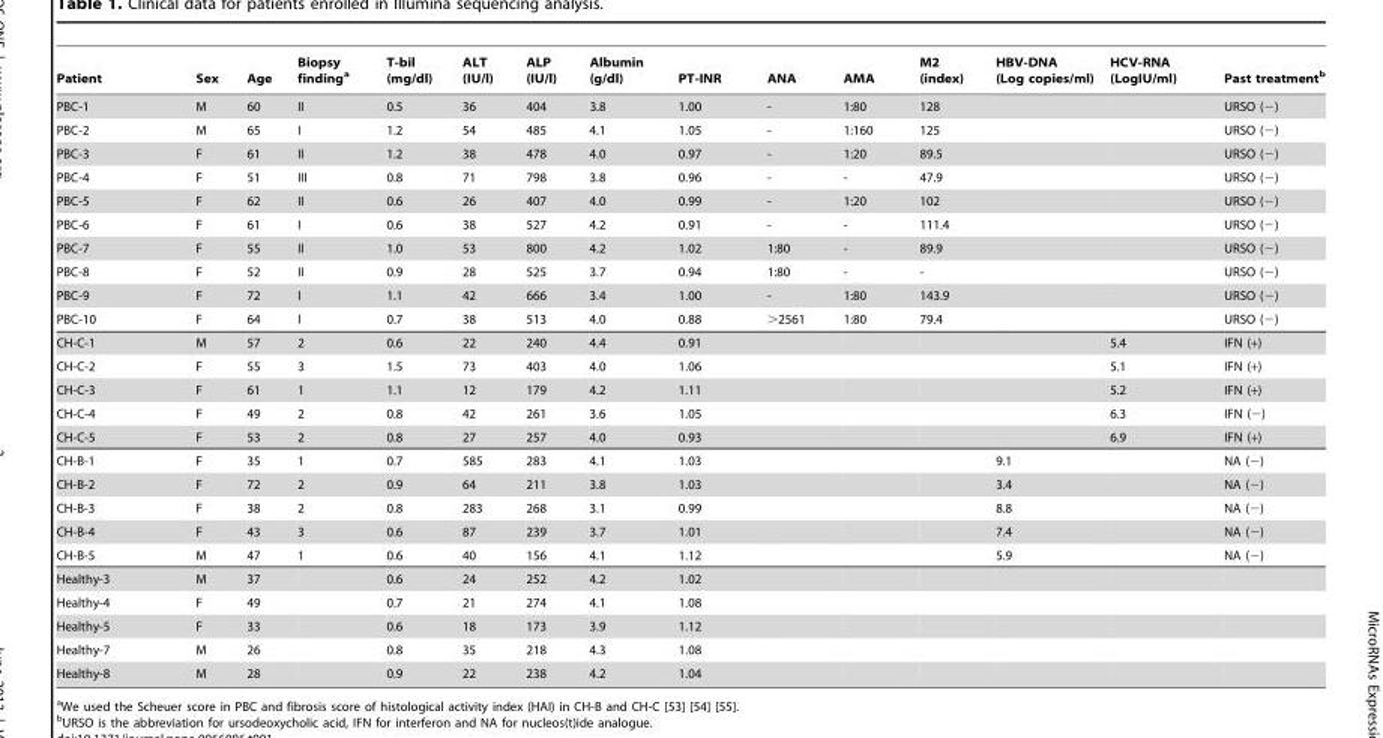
<table><thead><tr><td>Patient</td><td>Sex</td><td>Age</td><td>Biopsy finding<sup>a</sup></td><td>T-bil (mg/dl)</td><td>ALT (IU/l)</td><td>ALP (IU/l)</td><td>Albumin (g/dl)</td><td>PT-INR</td><td>ANA</td><td>AMA</td><td>M2 (index)</td><td>HBV-DNA (Log copies/ml)</td><td>HCV-RNA (LogIU/ml)</td><td>Past treatment<sup>b</sup></td></tr></thead><tbody><tr><td>PBC-1</td><td>M</td><td>60</td><td>II</td><td>0.5</td><td>36</td><td>404</td><td>3.8</td><td>1.00</td><td>-</td><td>1:80</td><td>128</td><td></td><td></td><td>URSO (−)</td></tr><tr><td>PBC-2</td><td>M</td><td>65</td><td>I</td><td>1.2</td><td>54</td><td>485</td><td>4.1</td><td>1.05</td><td>-</td><td>1:160</td><td>125</td><td></td><td></td><td>URSO (−)</td></tr><tr><td>PBC-3</td><td>F</td><td>61</td><td>II</td><td>1.2</td><td>38</td><td>478</td><td>4.0</td><td>0.97</td><td>-</td><td>1:20</td><td>89.5</td><td></td><td></td><td>URSO (−)</td></tr><tr><td>PBC-4</td><td>F</td><td>51</td><td>III</td><td>0.8</td><td>71</td><td>798</td><td>3.8</td><td>0.96</td><td>-</td><td>-</td><td>47.9</td><td></td><td></td><td>URSO (−)</td></tr><tr><td>PBC-5</td><td>F</td><td>62</td><td>II</td><td>0.6</td><td>26</td><td>407</td><td>4.0</td><td>0.99</td><td>-</td><td>1:20</td><td>102</td><td></td><td></td><td>URSO (−)</td></tr><tr><td>PBC-6</td><td>F</td><td>61</td><td>I</td><td>0.6</td><td>38</td><td>527</td><td>4.2</td><td>0.91</td><td>-</td><td>-</td><td>111.4</td><td></td><td></td><td>URSO (−)</td></tr><tr><td>PBC-7</td><td>F</td><td>55</td><td>II</td><td>1.0</td><td>53</td><td>800</td><td>4.2</td><td>1.02</td><td>1:80</td><td>-</td><td>89.9</td><td></td><td></td><td>URSO (−)</td></tr><tr><td>PBC-8</td><td>F</td><td>52</td><td>II</td><td>0.9</td><td>28</td><td>525</td><td>3.7</td><td>0.94</td><td>1:80</td><td>-</td><td>-</td><td></td><td></td><td>URSO (−)</td></tr><tr><td>PBC-9</td><td>F</td><td>72</td><td>I</td><td>1.1</td><td>42</td><td>666</td><td>3.4</td><td>1.00</td><td>-</td><td>1:80</td><td>143.9</td><td></td><td></td><td>URSO (−)</td></tr><tr><td>PBC-10</td><td>F</td><td>64</td><td>I</td><td>0.7</td><td>38</td><td>513</td><td>4.0</td><td>0.88</td><td>&gt;2561</td><td>1:80</td><td>79.4</td><td></td><td></td><td>URSO (−)</td></tr><tr><td>CH-C-1</td><td>M</td><td>57</td><td>2</td><td>0.6</td><td>22</td><td>240</td><td>4.4</td><td>0.91</td><td></td><td></td><td></td><td></td><td>5.4</td><td>IFN (+)</td></tr><tr><td>CH-C-2</td><td>F</td><td>55</td><td>3</td><td>1.5</td><td>73</td><td>403</td><td>4.0</td><td>1.06</td><td></td><td></td><td></td><td></td><td>5.1</td><td>IFN (+)</td></tr><tr><td>CH-C-3</td><td>F</td><td>61</td><td>1</td><td>1.1</td><td>12</td><td>179</td><td>4.2</td><td>1.11</td><td></td><td></td><td></td><td></td><td>5.2</td><td>IFN (+)</td></tr><tr><td>CH-C-4</td><td>F</td><td>49</td><td>2</td><td>0.8</td><td>42</td><td>261</td><td>3.6</td><td>1.05</td><td></td><td></td><td></td><td></td><td>6.3</td><td>IFN (−)</td></tr><tr><td>CH-C-5</td><td>F</td><td>53</td><td>2</td><td>0.8</td><td>27</td><td>257</td><td>4.0</td><td>0.93</td><td></td><td></td><td></td><td></td><td>6.9</td><td>IFN (+)</td></tr><tr><td>CH-B-1</td><td>F</td><td>35</td><td>1</td><td>0.7</td><td>585</td><td>283</td><td>4.1</td><td>1.03</td><td></td><td></td><td></td><td>9.1</td><td></td><td>NA (−)</td></tr><tr><td>CH-B-2</td><td>F</td><td>72</td><td>2</td><td>0.9</td><td>64</td><td>211</td><td>3.8</td><td>1.03</td><td></td><td></td><td></td><td>3.4</td><td></td><td>NA (−)</td></tr><tr><td>CH-B-3</td><td>F</td><td>38</td><td>2</td><td>0.8</td><td>283</td><td>268</td><td>3.1</td><td>0.99</td><td></td><td></td><td></td><td>8.8</td><td></td><td>NA (−)</td></tr><tr><td>CH-B-4</td><td>F</td><td>43</td><td>3</td><td>0.6</td><td>87</td><td>239</td><td>3.7</td><td>1.01</td><td></td><td></td><td></td><td>7.4</td><td></td><td>NA (−)</td></tr><tr><td>CH-B-5</td><td>M</td><td>47</td><td>1</td><td>0.6</td><td>40</td><td>156</td><td>4.1</td><td>1.12</td><td></td><td></td><td></td><td>5.9</td><td></td><td>NA (−)</td></tr><tr><td>Healthy-3</td><td>M</td><td>37</td><td></td><td>0.6</td><td>24</td><td>252</td><td>4.2</td><td>1.02</td><td></td><td></td><td></td><td></td><td></td><td></td></tr><tr><td>Healthy-4</td><td>F</td><td>49</td><td></td><td>0.7</td><td>21</td><td>274</td><td>4.1</td><td>1.08</td><td></td><td></td><td></td><td></td><td></td><td></td></tr><tr><td>Healthy-5</td><td>F</td><td>33</td><td></td><td>0.6</td><td>18</td><td>173</td><td>3.9</td><td>1.12</td><td></td><td></td><td></td><td></td><td></td><td></td></tr><tr><td>Healthy-7</td><td>M</td><td>26</td><td></td><td>0.8</td><td>35</td><td>218</td><td>4.3</td><td>1.08</td><td></td><td></td><td></td><td></td><td></td><td></td></tr><tr><td>Healthy-8</td><td>M</td><td>28</td><td></td><td>0.9</td><td>22</td><td>238</td><td>4.2</td><td>1.04</td><td></td><td></td><td></td><td></td><td></td><td></td></tr></tbody></table>